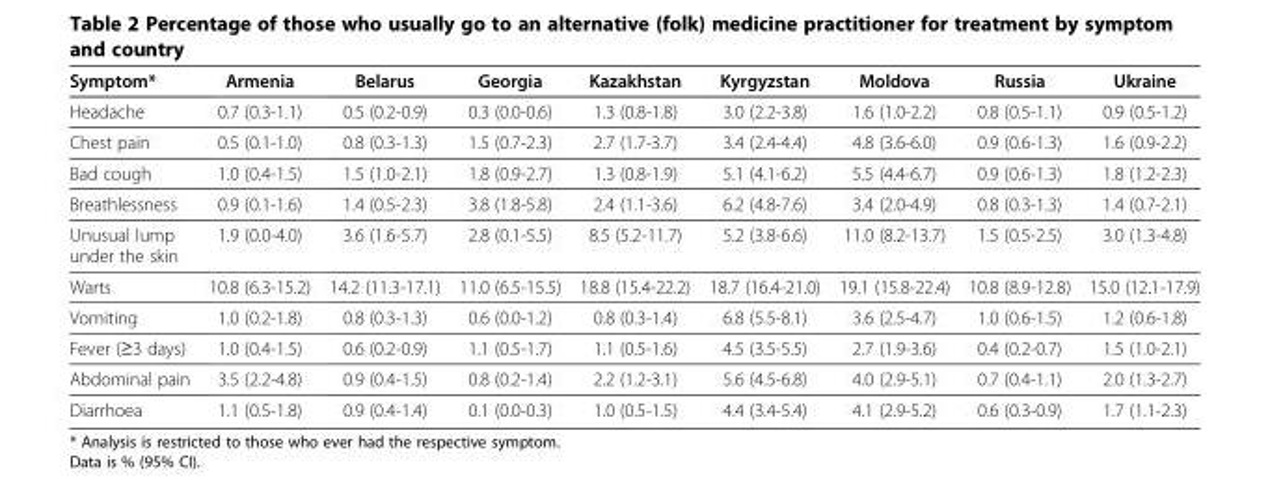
<table><thead><tr><td>Symptom*</td><td>Armenia</td><td>Belarus</td><td>Georgia</td><td>Kazakhstan</td><td>Kyrgyzstan</td><td>Moldova</td><td>Russia</td><td>Ukraine</td></tr></thead><tbody><tr><td>Headache</td><td>0.7 (0.3-1.1)</td><td>0.5 (0.2-0.9)</td><td>0.3 (0.0-0.6)</td><td>1.3 (0.8-1.8)</td><td>3.0 (2.2-3.8)</td><td>1.6 (1.0-2.2)</td><td>0.8 (0.5-1.1)</td><td>0.9 (0.5-1.2)</td></tr><tr><td>Chest pain</td><td>0.5 (0.1-1.0)</td><td>0.8 (0.3-1.3)</td><td>1.5 (0.7-2.3)</td><td>2.7 (1.7-3.7)</td><td>3.4 (2.4-4.4)</td><td>4.8 (3.6-6.0)</td><td>0.9 (0.6-1.3)</td><td>1.6 (0.9-2.2)</td></tr><tr><td>Bad cough</td><td>1.0 (0.4-1.5)</td><td>1.5 (1.0-2.1)</td><td>1.8 (0.9-2.7)</td><td>1.3 (0.8-1.9)</td><td>5.1 (4.1-6.2)</td><td>5.5 (4.4-6.7)</td><td>0.9 (0.6-1.3)</td><td>1.8 (1.2-2.3)</td></tr><tr><td>Breathlessness</td><td>0.9 (0.1-1.6)</td><td>1.4 (0.5-2.3)</td><td>3.8 (1.8-5.8)</td><td>2.4 (1.1-3.6)</td><td>6.2 (4.8-7.6)</td><td>3.4 (2.0-4.9)</td><td>0.8 (0.3-1.3)</td><td>1.4 (0.7-2.1)</td></tr><tr><td>Unusual lump under the skin</td><td>1.9 (0.0-4.0)</td><td>3.6 (1.6-5.7)</td><td>2.8 (0.1-5.5)</td><td>8.5 (5.2-11.7)</td><td>5.2 (3.8-6.6)</td><td>11.0 (8.2-13.7)</td><td>1.5 (0.5-2.5)</td><td>3.0 (1.3-4.8)</td></tr><tr><td>Warts</td><td>10.8 (6.3-15.2)</td><td>14.2 (11.3-17.1)</td><td>11.0 (6.5-15.5)</td><td>18.8 (15.4-22.2)</td><td>18.7 (16.4-21.0)</td><td>19.1 (15.8-22.4)</td><td>10.8 (8.9-12.8)</td><td>15.0 (12.1-17.9)</td></tr><tr><td>Vomiting</td><td>1.0 (0.2-1.8)</td><td>0.8 (0.3-1.3)</td><td>0.6 (0.0-1.2)</td><td>0.8 (0.3-1.4)</td><td>6.8 (5.5-8.1)</td><td>3.6 (2.5-4.7)</td><td>1.0 (0.6-1.5)</td><td>1.2 (0.6-1.8)</td></tr><tr><td>Fever (≥3 days)</td><td>1.0 (0.4-1.5)</td><td>0.6 (0.2-0.9)</td><td>1.1 (0.5-1.7)</td><td>1.1 (0.5-1.6)</td><td>4.5 (3.5-5.5)</td><td>2.7 (1.9-3.6)</td><td>0.4 (0.2-0.7)</td><td>1.5 (1.0-2.1)</td></tr><tr><td>Abdominal pain</td><td>3.5 (2.2-4.8)</td><td>0.9 (0.4-1.5)</td><td>0.8 (0.2-1.4)</td><td>2.2 (1.2-3.1)</td><td>5.6 (4.5-6.8)</td><td>4.0 (2.9-5.1)</td><td>0.7 (0.4-1.1)</td><td>2.0 (1.3-2.7)</td></tr><tr><td>Diarrhoea</td><td>1.1 (0.5-1.8)</td><td>0.9 (0.4-1.4)</td><td>0.1 (0.0-0.3)</td><td>1.0 (0.5-1.5)</td><td>4.4 (3.4-5.4)</td><td>4.1 (2.9-5.2)</td><td>0.6 (0.3-0.9)</td><td>1.7 (1.1-2.3)</td></tr></tbody></table>